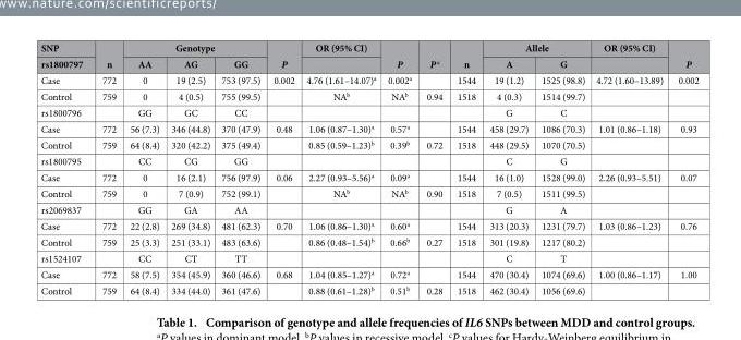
<table><thead><tr><td rowspan="2">SNP rs1800797</td><td rowspan="2">n</td><td colspan="3">Genotype</td><td rowspan="2">P</td><td rowspan="2">OR (95% CI)</td><td rowspan="2">P</td><td rowspan="2">P <sup>c</sup></td><td rowspan="2">n</td><td colspan="2">Allele</td><td rowspan="2">OR (95% CI)</td><td rowspan="2">P</td></tr><tr><td>AA</td><td>AG</td><td>GG</td><td>A</td><td>G</td></tr></thead><tbody><tr><td>Case</td><td>772</td><td>0</td><td>19 (2.5)</td><td>753 (97.5)</td><td>0.002</td><td>4.76 (1.61–14.07)<sup>a</sup></td><td>0.002<sup>a</sup></td><td></td><td>1544</td><td>19 (1.2)</td><td>1525 (98.8)</td><td>4.72 (1.60–13.89)</td><td>0.002</td></tr><tr><td>Control</td><td>759</td><td>0</td><td>4 (0.5)</td><td>755 (99.5)</td><td></td><td>NA<sup>b</sup></td><td>NA<sup>b</sup></td><td>0.94</td><td>1518</td><td>4 (0.3)</td><td>1514 (99.7)</td><td></td><td></td></tr><tr><td>rs1800796</td><td></td><td>GG</td><td>GC</td><td>CC</td><td></td><td></td><td></td><td></td><td></td><td>G</td><td>C</td><td></td><td></td></tr><tr><td>Case</td><td>772</td><td>56 (7.3)</td><td>346 (44.8)</td><td>370 (47.9)</td><td>0.48</td><td>1.06 (0.87–1.30)<sup>a</sup></td><td>0.57<sup>a</sup></td><td></td><td>1544</td><td>458 (29.7)</td><td>1086 (70.3)</td><td>1.01 (0.86–1.18)</td><td>0.93</td></tr><tr><td>Control</td><td>759</td><td>64 (8.4)</td><td>320 (42.2)</td><td>375 (49.4)</td><td></td><td>0.85 (0.59–1.23)<sup>b</sup></td><td>0.39<sup>b</sup></td><td>0.72</td><td>1518</td><td>448 (29.5)</td><td>1070 (70.5)</td><td></td><td></td></tr><tr><td>rs1800795</td><td></td><td>CC</td><td>CG</td><td>GG</td><td></td><td></td><td></td><td></td><td></td><td>C</td><td>G</td><td></td><td></td></tr><tr><td>Case</td><td>772</td><td>0</td><td>16 (2.1)</td><td>756 (97.9)</td><td>0.06</td><td>2.27 (0.93–5.56)<sup>a</sup></td><td>0.09<sup>a</sup></td><td></td><td>1544</td><td>16 (1.0)</td><td>1528 (99.0)</td><td>2.26 (0.93–5.51)</td><td>0.07</td></tr><tr><td>Control</td><td>759</td><td>0</td><td>7 (0.9)</td><td>752 (99.1)</td><td></td><td>NA<sup>b</sup></td><td>NA<sup>b</sup></td><td>0.90</td><td>1518</td><td>7 (0.5)</td><td>1511 (99.5)</td><td></td><td></td></tr><tr><td>rs2069837</td><td></td><td>GG</td><td>GA</td><td>AA</td><td></td><td></td><td></td><td></td><td></td><td>G</td><td>A</td><td></td><td></td></tr><tr><td>Case</td><td>772</td><td>22 (2.8)</td><td>269 (34.8)</td><td>481 (62.3)</td><td>0.70</td><td>1.06 (0.86–1.30)<sup>a</sup></td><td>0.60<sup>a</sup></td><td></td><td>1544</td><td>313 (20.3)</td><td>1231 (79.7)</td><td>1.03 (0.86–1.23)</td><td>0.76</td></tr><tr><td>Control</td><td>759</td><td>25 (3.3)</td><td>251 (33.1)</td><td>483 (63.6)</td><td></td><td>0.86 (0.48–1.54)<sup>b</sup></td><td>0.66<sup>b</sup></td><td>0.27</td><td>1518</td><td>301 (19.8)</td><td>1217 (80.2)</td><td></td><td></td></tr><tr><td>rs1524107</td><td></td><td>CC</td><td>CT</td><td>TT</td><td></td><td></td><td></td><td></td><td></td><td>C</td><td>T</td><td></td><td></td></tr><tr><td>Case</td><td>772</td><td>58 (7.5)</td><td>354 (45.9)</td><td>360 (46.6)</td><td>0.68</td><td>1.04 (0.85–1.27)<sup>a</sup></td><td>0.72<sup>a</sup></td><td></td><td>1544</td><td>470 (30.4)</td><td>1074 (69.6)</td><td>1.00 (0.86–1.17)</td><td>1.00</td></tr><tr><td>Control</td><td>759</td><td>64 (8.4)</td><td>334 (44.0)</td><td>361 (47.6)</td><td></td><td>0.88 (0.61–1.28)<sup>b</sup></td><td>0.51<sup>b</sup></td><td>0.28</td><td>1518</td><td>462 (30.4)</td><td>1056 (69.6)</td><td></td><td></td></tr></tbody></table>